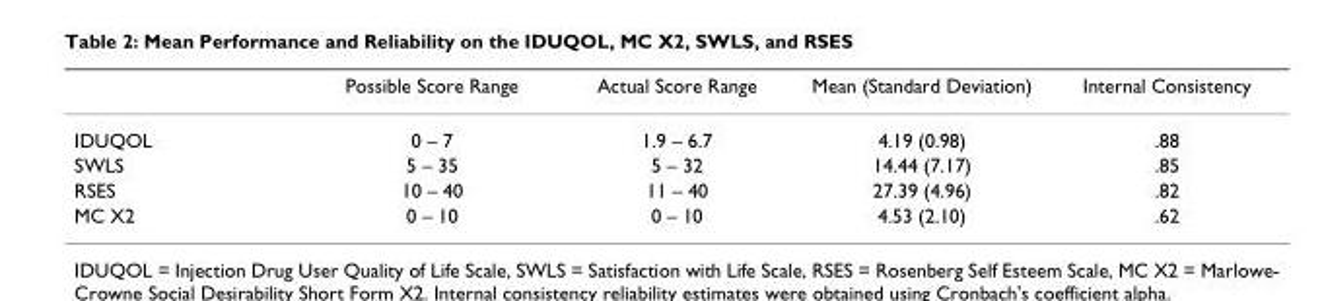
<table><thead><tr><td></td><td>Possible Score Range</td><td>Actual Score Range</td><td>Mean (Standard Deviation)</td><td>Internal Consistency</td></tr></thead><tbody><tr><td>IDUQOL</td><td>0 – 7</td><td>1.9 – 6.7</td><td>4.19 (0.98)</td><td>.88</td></tr><tr><td>SWLS</td><td>5 – 35</td><td>5 – 32</td><td>14.44 (7.17)</td><td>.85</td></tr><tr><td>RSES</td><td>10 – 40</td><td>11 – 40</td><td>27.39 (4.96)</td><td>.82</td></tr><tr><td>MC X2</td><td>0 – 10</td><td>0 – 10</td><td>4.53 (2.10)</td><td>.62</td></tr></tbody></table>